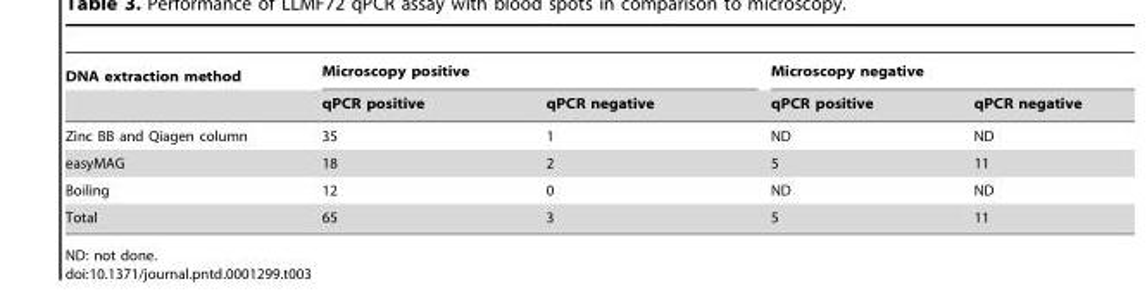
<table><thead><tr><td rowspan="2">DNA extraction method</td><td colspan="2">Microscopy positive</td><td colspan="2">Microscopy negative</td></tr><tr><td>qPCR positive</td><td>qPCR negative</td><td>qPCR positive</td><td>qPCR negative</td></tr></thead><tbody><tr><td>Zinc BB and Qiagen column</td><td>35</td><td>1</td><td>ND</td><td>ND</td></tr><tr><td>easyMAG</td><td>18</td><td>2</td><td>5</td><td>11</td></tr><tr><td>Boiling</td><td>12</td><td>0</td><td>ND</td><td>ND</td></tr><tr><td>Total</td><td>65</td><td>3</td><td>5</td><td>11</td></tr></tbody></table>